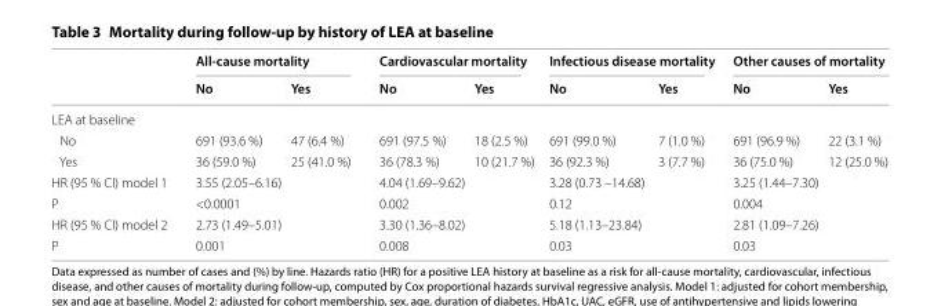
<table><thead><tr><td rowspan="2"></td><td colspan="2">All‑cause mortality</td><td colspan="2">Cardiovascular mortality</td><td colspan="2">Infectious disease mortality</td><td colspan="2">Other causes of mortality</td></tr><tr><td>No</td><td>Yes</td><td>No</td><td>Yes</td><td>No</td><td>Yes</td><td>No</td><td>Yes</td></tr></thead><tbody><tr><td colspan="9">LEA at baseline</td></tr><tr><td>No</td><td>691 (93.6 %)</td><td>47 (6.4 %)</td><td>691 (97.5 %)</td><td>18 (2.5 %)</td><td>691 (99.0 %)</td><td>7 (1.0 %)</td><td>691 (96.9 %)</td><td>22 (3.1 %)</td></tr><tr><td>Yes</td><td>36 (59.0 %)</td><td>25 (41.0 %)</td><td>36 (78.3 %)</td><td>10 (21.7 %)</td><td>36 (92.3 %)</td><td>3 (7.7 %)</td><td>36 (75.0 %)</td><td>12 (25.0 %)</td></tr><tr><td>HR (95 % CI) model 1</td><td colspan="2">3.55 (2.05–6.16)</td><td colspan="2">4.04 (1.69–9.62)</td><td colspan="2">3.28 (0.73 –14.68)</td><td colspan="2">3.25 (1.44–7.30)</td></tr><tr><td>P</td><td colspan="2">&lt;0.0001</td><td colspan="2">0.002</td><td colspan="2">0.12</td><td colspan="2">0.004</td></tr><tr><td>HR (95 % CI) model 2</td><td colspan="2">2.73 (1.49–5.01)</td><td colspan="2">3.30 (1.36–8.02)</td><td colspan="2">5.18 (1.13–23.84)</td><td colspan="2">2.81 (1.09–7.26)</td></tr><tr><td>P</td><td colspan="2">0.001</td><td colspan="2">0.008</td><td colspan="2">0.03</td><td colspan="2">0.03</td></tr></tbody></table>